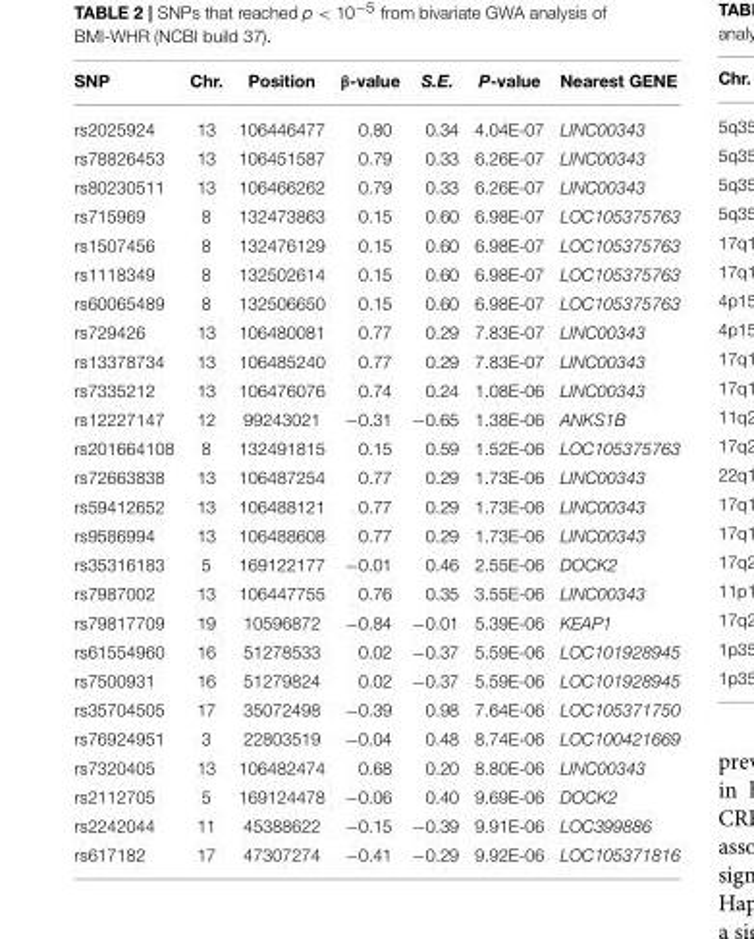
<table><thead><tr><td>SNP</td><td>Chr.</td><td>Position</td><td>β-value</td><td>S.E.</td><td>P-value</td><td>Nearest GENE</td></tr></thead><tbody><tr><td>rs2025924</td><td>13</td><td>106446477</td><td>0.80</td><td>0.34</td><td>4.04E-07</td><td>LINC00343</td></tr><tr><td>rs78826453</td><td>13</td><td>106451587</td><td>0.79</td><td>0.33</td><td>6.26E-07</td><td>LINC00343</td></tr><tr><td>rs80230511</td><td>13</td><td>106466262</td><td>0.79</td><td>0.33</td><td>6.26E-07</td><td>LINC00343</td></tr><tr><td>rs715969</td><td>8</td><td>132473863</td><td>0.15</td><td>0.60</td><td>6.98E-07</td><td>LOC105375763</td></tr><tr><td>rs1507456</td><td>8</td><td>132476129</td><td>0.15</td><td>0.60</td><td>6.98E-07</td><td>LOC105375763</td></tr><tr><td>rs1118349</td><td>8</td><td>132502614</td><td>0.15</td><td>0.60</td><td>6.98E-07</td><td>LOC105375763</td></tr><tr><td>rs60065489</td><td>8</td><td>132506650</td><td>0.15</td><td>0.60</td><td>6.98E-07</td><td>LOC105375763</td></tr><tr><td>rs729426</td><td>13</td><td>106480081</td><td>0.77</td><td>0.29</td><td>7.83E-07</td><td>LINC00343</td></tr><tr><td>rs13378734</td><td>13</td><td>106485240</td><td>0.77</td><td>0.29</td><td>7.83E-07</td><td>LINC00343</td></tr><tr><td>rs7335212</td><td>13</td><td>106476076</td><td>0.74</td><td>0.24</td><td>1.08E-06</td><td>LINC00343</td></tr><tr><td>rs12227147</td><td>12</td><td>99243021</td><td>−0.31</td><td>−0.65</td><td>1.38E-06</td><td>ANKS1B</td></tr><tr><td>rs201664108</td><td>8</td><td>132491815</td><td>0.15</td><td>0.59</td><td>1.52E-06</td><td>LOC105375763</td></tr><tr><td>rs72663838</td><td>13</td><td>106487254</td><td>0.77</td><td>0.29</td><td>1.73E-06</td><td>LINC00343</td></tr><tr><td>rs59412652</td><td>13</td><td>106488121</td><td>0.77</td><td>0.29</td><td>1.73E-06</td><td>LINC00343</td></tr><tr><td>rs9586994</td><td>13</td><td>106488608</td><td>0.77</td><td>0.29</td><td>1.73E-06</td><td>LINC00343</td></tr><tr><td>rs35316183</td><td>5</td><td>169122177</td><td>−0.01</td><td>0.46</td><td>2.55E-06</td><td>DOCK2</td></tr><tr><td>rs7987002</td><td>13</td><td>106447755</td><td>0.76</td><td>0.35</td><td>3.55E-06</td><td>LINC00343</td></tr><tr><td>rs79817709</td><td>19</td><td>10596872</td><td>−0.84</td><td>−0.01</td><td>5.39E-06</td><td>KEAP1</td></tr><tr><td>rs61554960</td><td>16</td><td>51278533</td><td>0.02</td><td>−0.37</td><td>5.59E-06</td><td>LOC101928945</td></tr><tr><td>rs7500931</td><td>16</td><td>51279824</td><td>0.02</td><td>−0.37</td><td>5.59E-06</td><td>LOC101928945</td></tr><tr><td>rs35704505</td><td>17</td><td>35072498</td><td>−0.39</td><td>0.98</td><td>7.64E-06</td><td>LOC105371750</td></tr><tr><td>rs76924951</td><td>3</td><td>22803519</td><td>−0.04</td><td>0.48</td><td>8.74E-06</td><td>LOC100421669</td></tr><tr><td>rs7320405</td><td>13</td><td>106482474</td><td>0.68</td><td>0.20</td><td>8.80E-06</td><td>LINC00343</td></tr><tr><td>rs2112705</td><td>5</td><td>169124478</td><td>−0.06</td><td>0.40</td><td>9.69E-06</td><td>DOCK2</td></tr><tr><td>rs2242044</td><td>11</td><td>45388622</td><td>−0.15</td><td>−0.39</td><td>9.91E-06</td><td>LOC399886</td></tr><tr><td>rs617182</td><td>17</td><td>47307274</td><td>−0.41</td><td>−0.29</td><td>9.92E-06</td><td>LOC105371816</td></tr></tbody></table>